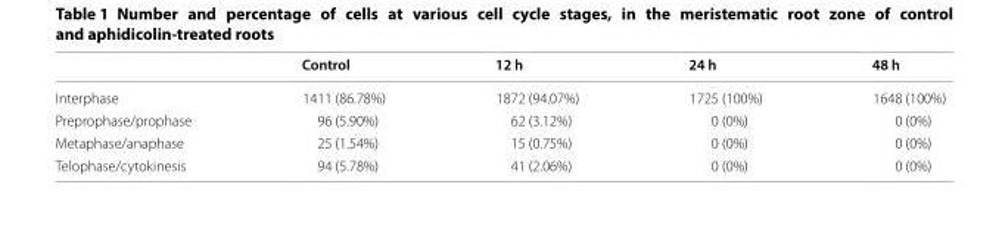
<table><thead><tr><td></td><td>Control</td><td>12 h</td><td>24 h</td><td>48 h</td></tr></thead><tbody><tr><td>Interphase</td><td>1411 (86.78%)</td><td>1872 (94.07%)</td><td>1725 (100%)</td><td>1648 (100%)</td></tr><tr><td>Preprophase/prophase</td><td>96 (5.90%)</td><td>62 (3.12%)</td><td>0 (0%)</td><td>0 (0%)</td></tr><tr><td>Metaphase/anaphase</td><td>25 (1.54%)</td><td>15 (0.75%)</td><td>0 (0%)</td><td>0 (0%)</td></tr><tr><td>Telophase/cytokinesis</td><td>94 (5.78%)</td><td>41 (2.06%)</td><td>0 (0%)</td><td>0 (0%)</td></tr></tbody></table>